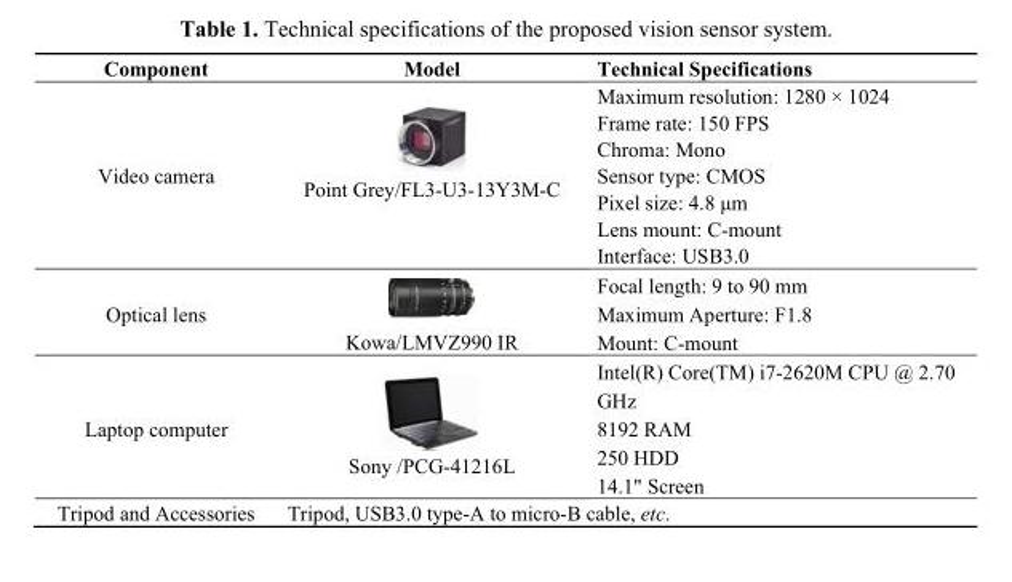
<table><thead><tr><td>Component</td><td>Model</td><td>Technical Specifications</td></tr></thead><tbody><tr><td rowspan="7">Video camera</td><td rowspan="7">Point Grey/FL3-U3-13Y3M-C</td><td>Maximum resolution: 1280 × 1024</td></tr><tr><td>Frame rate: 150 FPS</td></tr><tr><td>Chroma: Mono</td></tr><tr><td>Sensor type: CMOS</td></tr><tr><td>Pixel size: 4.8 μm</td></tr><tr><td>Lens mount: C-mount</td></tr><tr><td>Interface: USB3.0</td></tr><tr><td rowspan="3">Optical lens</td><td rowspan="3">Kowa/LMVZ990 IR</td><td>Focal length: 9 to 90 mm</td></tr><tr><td>Maximum Aperture: F1.8</td></tr><tr><td>Mount: C-mount</td></tr><tr><td rowspan="4">Laptop computer</td><td rowspan="4">Sony /PCG-41216L</td><td>Intel(R) Core(TM) i7-2620M CPU @ 2.70 GHz</td></tr><tr><td>8192 RAM</td></tr><tr><td>250 HDD</td></tr><tr><td>14.1&quot; Screen</td></tr><tr><td>Tripod and Accessories</td><td colspan="2">Tripod, USB3.0 type-A to micro-B cable, etc.</td></tr></tbody></table>